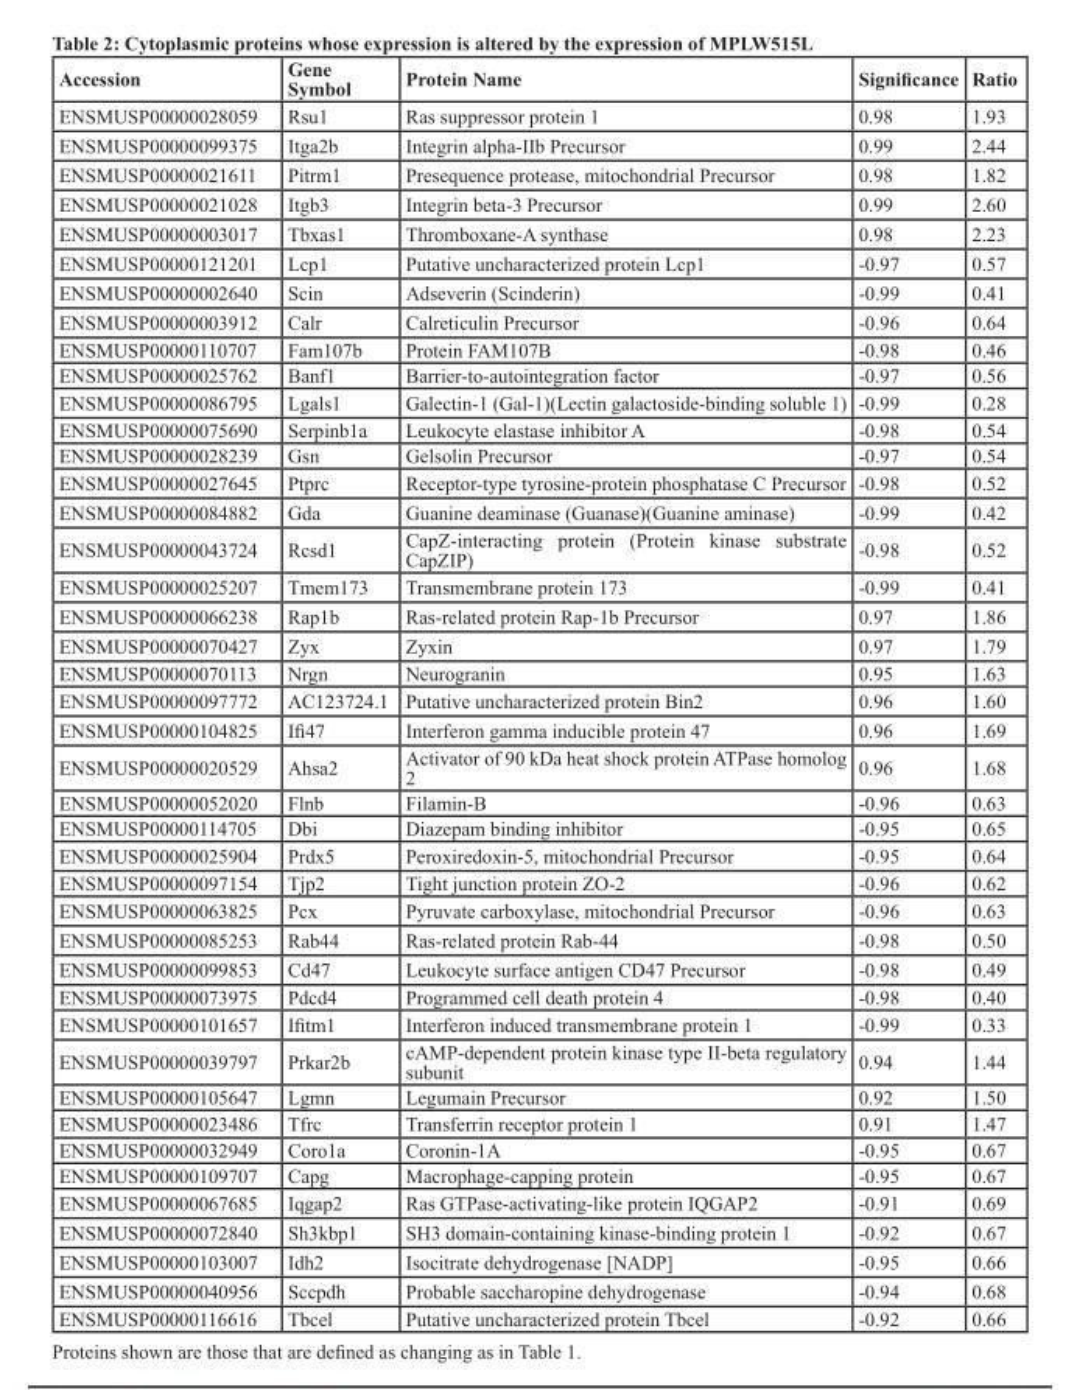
<table><thead><tr><td>Accession</td><td>Gene Symbol</td><td>Protein Name</td><td>Significance</td><td>Ratio</td></tr></thead><tbody><tr><td>ENSMUSP00000028059</td><td>Rsu1</td><td>Ras suppressor protein 1</td><td>0.98</td><td>1.93</td></tr><tr><td>ENSMUSP00000099375</td><td>Itga2b</td><td>Integrin alpha-IIb Precursor</td><td>0.99</td><td>2.44</td></tr><tr><td>ENSMUSP00000021611</td><td>Pitrm1</td><td>Presequence protease, mitochondrial Precursor</td><td>0.98</td><td>1.82</td></tr><tr><td>ENSMUSP00000021028</td><td>Itgb3</td><td>Integrin beta-3 Precursor</td><td>0.99</td><td>2.60</td></tr><tr><td>ENSMUSP00000003017</td><td>Tbxas1</td><td>Thromboxane-A synthase</td><td>0.98</td><td>2.23</td></tr><tr><td>ENSMUSP00000121201</td><td>Lcp1</td><td>Putative uncharacterized protein Lcp1</td><td>-0.97</td><td>0.57</td></tr><tr><td>ENSMUSP00000002640</td><td>Scin</td><td>Adseverin (Scinderin)</td><td>-0.99</td><td>0.41</td></tr><tr><td>ENSMUSP00000003912</td><td>Calr</td><td>Calreticulin Precursor</td><td>-0.96</td><td>0.64</td></tr><tr><td>ENSMUSP00000110707</td><td>Fam107b</td><td>Protein FAM107B</td><td>-0.98</td><td>0.46</td></tr><tr><td>ENSMUSP00000025762</td><td>Banf1</td><td>Barrier-to-autointegration factor</td><td>-0.97</td><td>0.56</td></tr><tr><td>ENSMUSP00000086795</td><td>Lgals1</td><td>Galectin-1 (Gal-1)(Lectin galactoside-binding soluble 1)</td><td>-0.99</td><td>0.28</td></tr><tr><td>ENSMUSP00000075690</td><td>Serpinb1a</td><td>Leukocyte elastase inhibitor A</td><td>-0.98</td><td>0.54</td></tr><tr><td>ENSMUSP00000028239</td><td>Gsn</td><td>Gelsolin Precursor</td><td>-0.97</td><td>0.54</td></tr><tr><td>ENSMUSP00000027645</td><td>Ptprc</td><td>Receptor-type tyrosine-protein phosphatase C Precursor</td><td>-0.98</td><td>0.52</td></tr><tr><td>ENSMUSP00000084882</td><td>Gda</td><td>Guanine deaminase (Guanase)(Guanine aminase)</td><td>-0.99</td><td>0.42</td></tr><tr><td>ENSMUSP00000043724</td><td>Rcsd1</td><td>CapZ-interacting protein (Protein kinase substrate CapZIP)</td><td>-0.98</td><td>0.52</td></tr><tr><td>ENSMUSP00000025207</td><td>Tmem173</td><td>Transmembrane protein 173</td><td>-0.99</td><td>0.41</td></tr><tr><td>ENSMUSP00000066238</td><td>Rap1b</td><td>Ras-related protein Rap-1b Precursor</td><td>0.97</td><td>1.86</td></tr><tr><td>ENSMUSP00000070427</td><td>Zyx</td><td>Zyxin</td><td>0.97</td><td>1.79</td></tr><tr><td>ENSMUSP00000070113</td><td>Nrgn</td><td>Neurogranin</td><td>0.95</td><td>1.63</td></tr><tr><td>ENSMUSP00000097772</td><td>AC123724.1</td><td>Putative uncharacterized protein Bin2</td><td>0.96</td><td>1.60</td></tr><tr><td>ENSMUSP00000104825</td><td>Ifi47</td><td>Interferon gamma inducible protein 47</td><td>0.96</td><td>1.69</td></tr><tr><td>ENSMUSP00000020529</td><td>Ahsa2</td><td>Activator of 90 kDa heat shock protein ATPase homolog 2</td><td>0.96</td><td>1.68</td></tr><tr><td>ENSMUSP00000052020</td><td>Flnb</td><td>Filamin-B</td><td>-0.96</td><td>0.63</td></tr><tr><td>ENSMUSP00000114705</td><td>Dbi</td><td>Diazepam binding inhibitor</td><td>-0.95</td><td>0.65</td></tr><tr><td>ENSMUSP00000025904</td><td>Prdx5</td><td>Peroxiredoxin-5, mitochondrial Precursor</td><td>-0.95</td><td>0.64</td></tr><tr><td>ENSMUSP00000097154</td><td>Tjp2</td><td>Tight junction protein ZO-2</td><td>-0.96</td><td>0.62</td></tr><tr><td>ENSMUSP00000063825</td><td>Pcx</td><td>Pyruvate carboxylase, mitochondrial Precursor</td><td>-0.96</td><td>0.63</td></tr><tr><td>ENSMUSP00000085253</td><td>Rab44</td><td>Ras-related protein Rab-44</td><td>-0.98</td><td>0.50</td></tr><tr><td>ENSMUSP00000099853</td><td>Cd47</td><td>Leukocyte surface antigen CD47 Precursor</td><td>-0.98</td><td>0.49</td></tr><tr><td>ENSMUSP00000073975</td><td>Pdcd4</td><td>Programmed cell death protein 4</td><td>-0.98</td><td>0.40</td></tr><tr><td>ENSMUSP00000101657</td><td>Ifitm1</td><td>Interferon induced transmembrane protein 1</td><td>-0.99</td><td>0.33</td></tr><tr><td>ENSMUSP00000039797</td><td>Prkar2b</td><td>cAMP-dependent protein kinase type II-beta regulatory subunit</td><td>0.94</td><td>1.44</td></tr><tr><td>ENSMUSP00000105647</td><td>Lgmn</td><td>Legumain Precursor</td><td>0.92</td><td>1.50</td></tr><tr><td>ENSMUSP00000023486</td><td>Tfrc</td><td>Transferrin receptor protein 1</td><td>0.91</td><td>1.47</td></tr><tr><td>ENSMUSP00000032949</td><td>Coro1a</td><td>Coronin-1A</td><td>-0.95</td><td>0.67</td></tr><tr><td>ENSMUSP00000109707</td><td>Capg</td><td>Macrophage-capping protein</td><td>-0.95</td><td>0.67</td></tr><tr><td>ENSMUSP00000067685</td><td>Iqgap2</td><td>Ras GTPase-activating-like protein IQGAP2</td><td>-0.91</td><td>0.69</td></tr><tr><td>ENSMUSP00000072840</td><td>Sh3kbp1</td><td>SH3 domain-containing kinase-binding protein 1</td><td>-0.92</td><td>0.67</td></tr><tr><td>ENSMUSP00000103007</td><td>Idh2</td><td>Isocitrate dehydrogenase [NADP]</td><td>-0.95</td><td>0.66</td></tr><tr><td>ENSMUSP00000040956</td><td>Sccpdh</td><td>Probable saccharopine dehydrogenase</td><td>-0.94</td><td>0.68</td></tr><tr><td>ENSMUSP00000116616</td><td>Tbcel</td><td>Putative uncharacterized protein Tbcel</td><td>-0.92</td><td>0.66</td></tr></tbody></table>